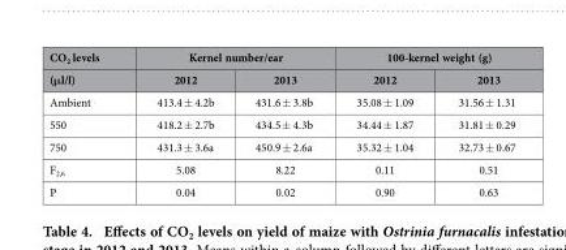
<table><thead><tr><td rowspan="2">CO<sub>2</sub> levels (μl/l)</td><td colspan="2">Kernel number/ear</td><td colspan="2">100-kernel weight (g)</td></tr><tr><td>2012</td><td>2013</td><td>2012</td><td>2013</td></tr></thead><tbody><tr><td>Ambient</td><td>413.4 ± 4.2b</td><td>431.6 ± 3.8b</td><td>35.08 ± 1.09</td><td>31.56 ± 1.31</td></tr><tr><td>550</td><td>418.2 ± 2.7b</td><td>434.5 ± 4.3b</td><td>34.44 ± 1.87</td><td>31.81 ± 0.29</td></tr><tr><td>750</td><td>431.3 ± 3.6a</td><td>450.9 ± 2.6a</td><td>35.32 ± 1.04</td><td>32.73 ± 0.67</td></tr><tr><td>F<sub>2,6</sub></td><td>5.08</td><td>8.22</td><td>0.11</td><td>0.51</td></tr><tr><td>P</td><td>0.04</td><td>0.02</td><td>0.90</td><td>0.63</td></tr></tbody></table>